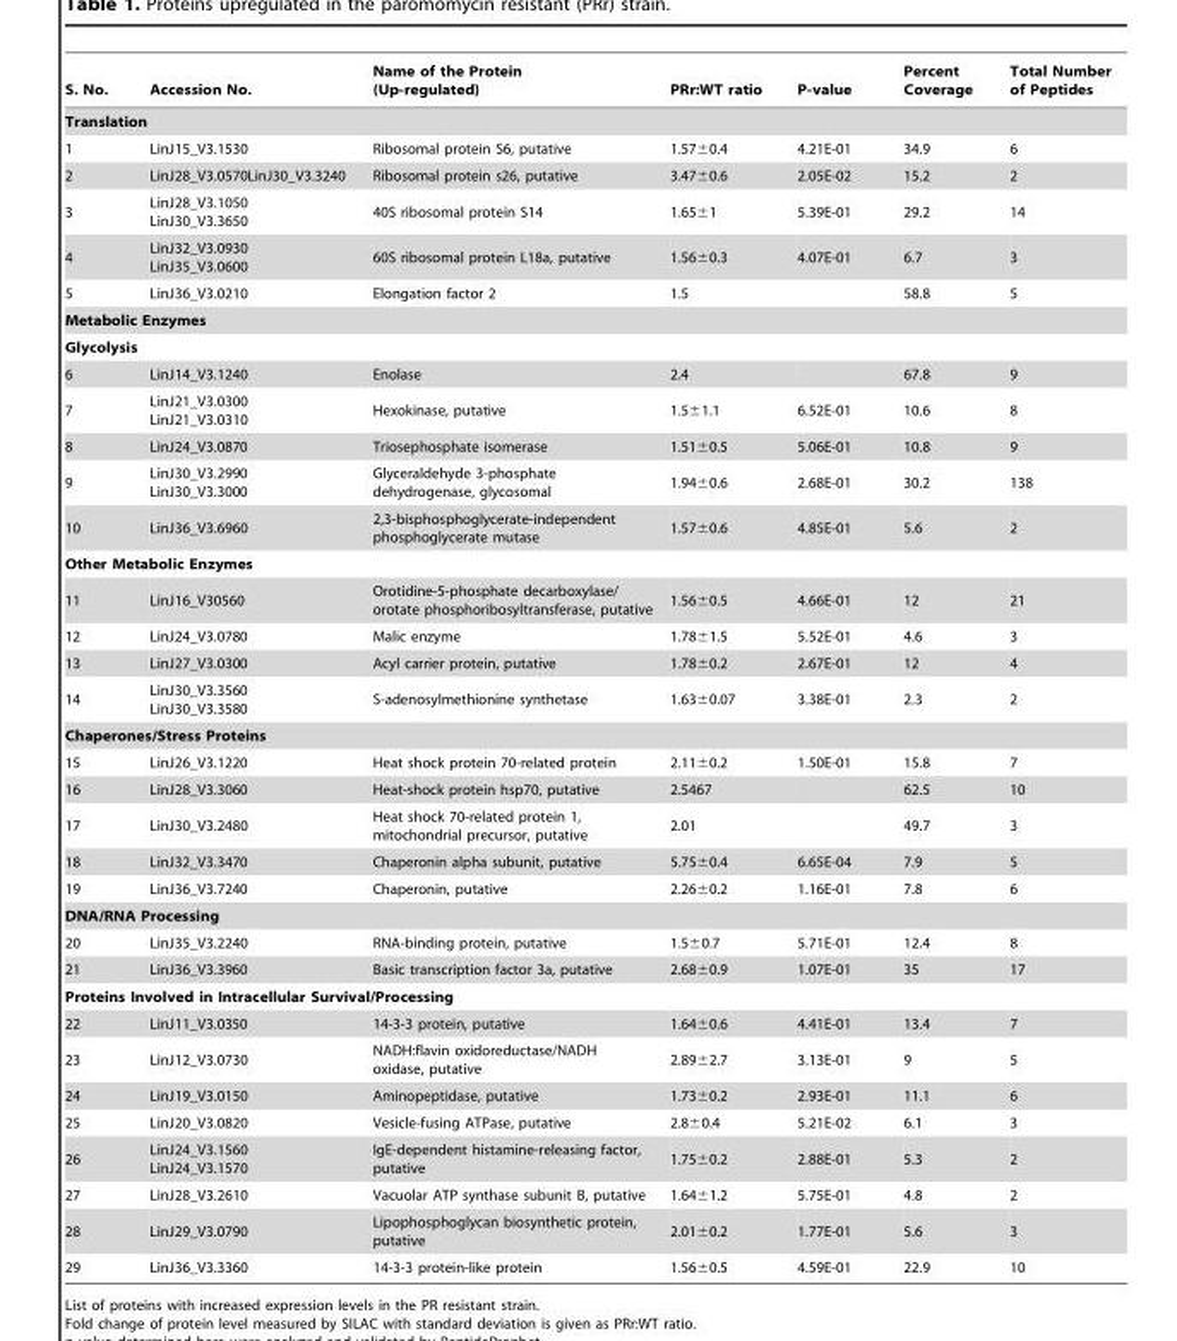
<table><thead><tr><td>S. No.</td><td>Accession No.</td><td>Name of the Protein (Up-regulated)</td><td>PRr:WT ratio</td><td>P-value</td><td>Percent Coverage</td><td>Total Number of Peptides</td></tr></thead><tbody><tr><td colspan="7">Translation</td></tr><tr><td>1</td><td>LinJ15_V3.1530</td><td>Ribosomal protein S6, putative</td><td>1.57±0.4</td><td>4.21E-01</td><td>34.9</td><td>6</td></tr><tr><td>2</td><td>LinJ28_V3.0570LinJ30_V3.3240</td><td>Ribosomal protein s26, putative</td><td>3.47±0.6</td><td>2.05E-02</td><td>15.2</td><td>2</td></tr><tr><td>3</td><td>LinJ28_V3.1050 LinJ30_V3.3650</td><td>40S ribosomal protein S14</td><td>1.65±1</td><td>5.39E-01</td><td>29.2</td><td>14</td></tr><tr><td>4</td><td>LinJ32_V3.0930 LinJ35_V3.0600</td><td>60S ribosomal protein L18a, putative</td><td>1.56±0.3</td><td>4.07E-01</td><td>6.7</td><td>3</td></tr><tr><td>5</td><td>LinJ36_V3.0210</td><td>Elongation factor 2</td><td>1.5</td><td></td><td>58.8</td><td>5</td></tr><tr><td colspan="7">Metabolic Enzymes</td></tr><tr><td colspan="7">Glycolysis</td></tr><tr><td>6</td><td>LinJ14_V3.1240</td><td>Enolase</td><td>2.4</td><td></td><td>67.8</td><td>9</td></tr><tr><td>7</td><td>LinJ21_V3.0300 LinJ21_V3.0310</td><td>Hexokinase, putative</td><td>1.5±1.1</td><td>6.52E-01</td><td>10.6</td><td>8</td></tr><tr><td>8</td><td>LinJ24_V3.0870</td><td>Triosephosphate isomerase</td><td>1.51±0.5</td><td>5.06E-01</td><td>10.8</td><td>9</td></tr><tr><td>9</td><td>LinJ30_V3.2990 LinJ30_V3.3000</td><td>Glyceraldehyde 3-phosphate dehydrogenase, glycosomal</td><td>1.94±0.6</td><td>2.68E-01</td><td>30.2</td><td>138</td></tr><tr><td>10</td><td>LinJ36_V3.6960</td><td>2,3-bisphosphoglycerate-independent phosphoglycerate mutase</td><td>1.57±0.6</td><td>4.85E-01</td><td>5.6</td><td>2</td></tr><tr><td colspan="7">Other Metabolic Enzymes</td></tr><tr><td>11</td><td>LinJ16_V30560</td><td>Orotidine-5-phosphate decarboxylase/ orotate phosphoribosyltransferase, putative</td><td>1.56±0.5</td><td>4.66E-01</td><td>12</td><td>21</td></tr><tr><td>12</td><td>LinJ24_V3.0780</td><td>Malic enzyme</td><td>1.78±1.5</td><td>5.52E-01</td><td>4.6</td><td>3</td></tr><tr><td>13</td><td>LinJ27_V3.0300</td><td>Acyl carrier protein, putative</td><td>1.78±0.2</td><td>2.67E-01</td><td>12</td><td>4</td></tr><tr><td>14</td><td>LinJ30_V3.3560 LinJ30_V3.3580</td><td>S-adenosylmethionine synthetase</td><td>1.63±0.07</td><td>3.38E-01</td><td>2.3</td><td>2</td></tr><tr><td colspan="7">Chaperones/Stress Proteins</td></tr><tr><td>15</td><td>LinJ26_V3.1220</td><td>Heat shock protein 70-related protein</td><td>2.11±0.2</td><td>1.50E-01</td><td>15.8</td><td>7</td></tr><tr><td>16</td><td>LinJ28_V3.3060</td><td>Heat-shock protein hsp70, putative</td><td>2.5467</td><td></td><td>62.5</td><td>10</td></tr><tr><td>17</td><td>LinJ30_V3.2480</td><td>Heat shock 70-related protein 1, mitochondrial precursor, putative</td><td>2.01</td><td></td><td>49.7</td><td>3</td></tr><tr><td>18</td><td>LinJ32_V3.3470</td><td>Chaperonin alpha subunit, putative</td><td>5.75±0.4</td><td>6.65E-04</td><td>7.9</td><td>5</td></tr><tr><td>19</td><td>LinJ36_V3.7240</td><td>Chaperonin, putative</td><td>2.26±0.2</td><td>1.16E-01</td><td>7.8</td><td>6</td></tr><tr><td colspan="7">DNA/RNA Processing</td></tr><tr><td>20</td><td>LinJ35_V3.2240</td><td>RNA-binding protein, putative</td><td>1.5±0.7</td><td>5.71E-01</td><td>12.4</td><td>8</td></tr><tr><td>21</td><td>LinJ36_V3.3960</td><td>Basic transcription factor 3a, putative</td><td>2.68±0.9</td><td>1.07E-01</td><td>35</td><td>17</td></tr><tr><td colspan="7">Proteins Involved in Intracellular Survival/Processing</td></tr><tr><td>22</td><td>LinJ11_V3.0350</td><td>14-3-3 protein, putative</td><td>1.64±0.6</td><td>4.41E-01</td><td>13.4</td><td>7</td></tr><tr><td>23</td><td>LinJ12_V3.0730</td><td>NADH:flavin oxidoreductase/NADH oxidase, putative</td><td>2.89±2.7</td><td>3.13E-01</td><td>9</td><td>5</td></tr><tr><td>24</td><td>LinJ19_V3.0150</td><td>Aminopeptidase, putative</td><td>1.73±0.2</td><td>2.93E-01</td><td>11.1</td><td>6</td></tr><tr><td>25</td><td>LinJ20_V3.0820</td><td>Vesicle-fusing ATPase, putative</td><td>2.8±0.4</td><td>5.21E-02</td><td>6.1</td><td>3</td></tr><tr><td>26</td><td>LinJ24_V3.1560 LinJ24_V3.1570</td><td>IgE-dependent histamine-releasing factor, putative</td><td>1.75±0.2</td><td>2.88E-01</td><td>5.3</td><td>2</td></tr><tr><td>27</td><td>LinJ28_V3.2610</td><td>Vacuolar ATP synthase subunit B, putative</td><td>1.64±1.2</td><td>5.75E-01</td><td>4.8</td><td>2</td></tr><tr><td>28</td><td>LinJ29_V3.0790</td><td>Lipophosphoglycan biosynthetic protein, putative</td><td>2.01±0.2</td><td>1.77E-01</td><td>5.6</td><td>3</td></tr><tr><td>29</td><td>LinJ36_V3.3360</td><td>14-3-3 protein-like protein</td><td>1.56±0.5</td><td>4.59E-01</td><td>22.9</td><td>10</td></tr></tbody></table>